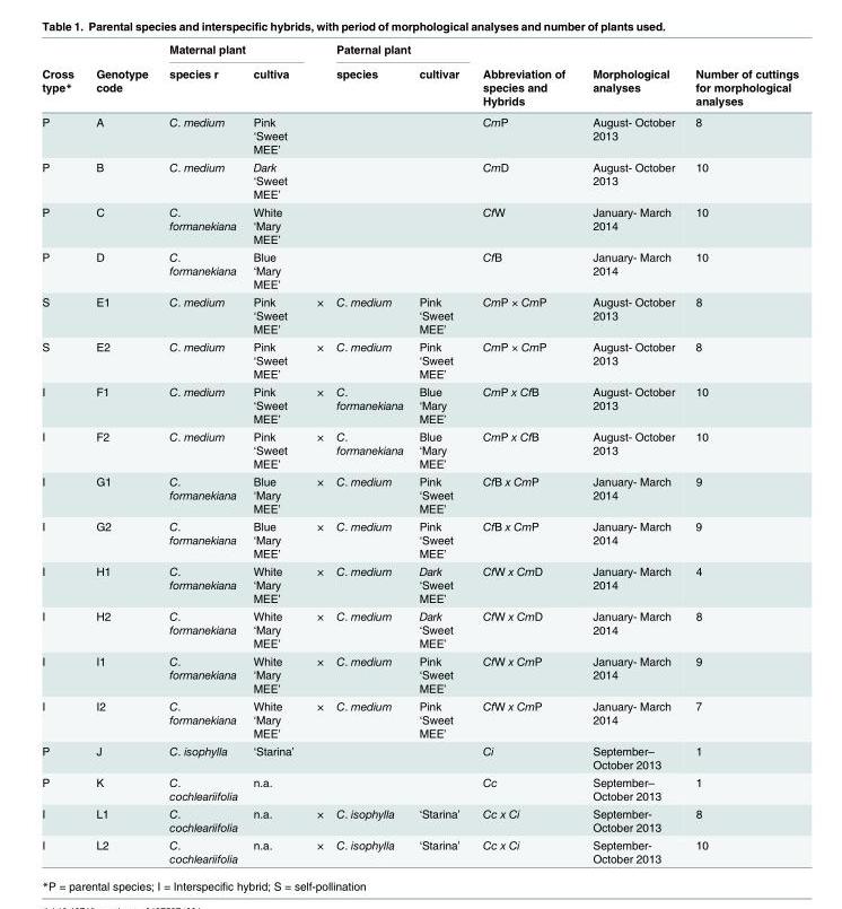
<table><thead><tr><td rowspan="2">Cross type*</td><td rowspan="2">Genotype code</td><td colspan="2">Maternal plant</td><td rowspan="2"></td><td colspan="2">Paternal plant</td><td rowspan="2">Abbreviation of species and Hybrids</td><td rowspan="2">Morphological analyses</td><td rowspan="2">Number of cuttings for morphological analyses</td></tr><tr><td>species r</td><td>cultiva</td><td>species</td><td>cultivar</td></tr></thead><tbody><tr><td>P</td><td>A</td><td>C. medium</td><td>Pink ‘Sweet MEE’</td><td></td><td></td><td></td><td>CmP</td><td>August- October 2013</td><td>8</td></tr><tr><td>P</td><td>B</td><td>C. medium</td><td>Dark ‘Sweet MEE’</td><td></td><td></td><td></td><td>CmD</td><td>August- October 2013</td><td>10</td></tr><tr><td>P</td><td>C</td><td>C. formanekiana</td><td>White ‘Mary MEE’</td><td></td><td></td><td></td><td>CfW</td><td>January- March 2014</td><td>10</td></tr><tr><td>P</td><td>D</td><td>C. formanekiana</td><td>Blue ‘Mary MEE’</td><td></td><td></td><td></td><td>CfB</td><td>January- March 2014</td><td>10</td></tr><tr><td>S</td><td>E1</td><td>C. medium</td><td>Pink ‘Sweet MEE’</td><td>×</td><td>C. medium</td><td>Pink ‘Sweet MEE’</td><td>CmP × CmP</td><td>August- October 2013</td><td>8</td></tr><tr><td>S</td><td>E2</td><td>C. medium</td><td>Pink ‘Sweet MEE’</td><td>×</td><td>C. medium</td><td>Pink ‘Sweet MEE’</td><td>CmP × CmP</td><td>August- October 2013</td><td>8</td></tr><tr><td>I</td><td>F1</td><td>C. medium</td><td>Pink ‘Sweet MEE’</td><td>×</td><td>C. formanekiana</td><td>Blue ‘Mary MEE’</td><td>CmP x CfB</td><td>August- October 2013</td><td>10</td></tr><tr><td>I</td><td>F2</td><td>C. medium</td><td>Pink ‘Sweet MEE’</td><td>×</td><td>C. formanekiana</td><td>Blue ‘Mary MEE’</td><td>CmP x CfB</td><td>August- October 2013</td><td>10</td></tr><tr><td>I</td><td>G1</td><td>C. formanekiana</td><td>Blue ‘Mary MEE’</td><td>×</td><td>C. medium</td><td>Pink ‘Sweet MEE’</td><td>CfB x CmP</td><td>January- March 2014</td><td>9</td></tr><tr><td>I</td><td>G2</td><td>C. formanekiana</td><td>Blue ‘Mary MEE’</td><td>×</td><td>C. medium</td><td>Pink ‘Sweet MEE’</td><td>CfB x CmP</td><td>January- March 2014</td><td>9</td></tr><tr><td>I</td><td>H1</td><td>C. formanekiana</td><td>White ‘Mary MEE’</td><td>×</td><td>C. medium</td><td>Dark ‘Sweet MEE’</td><td>CfW x CmD</td><td>January- March 2014</td><td>4</td></tr><tr><td>I</td><td>H2</td><td>C. formanekiana</td><td>White ‘Mary MEE’</td><td>×</td><td>C. medium</td><td>Dark ‘Sweet MEE’</td><td>CfW x CmD</td><td>January- March 2014</td><td>8</td></tr><tr><td>I</td><td>I1</td><td>C. formanekiana</td><td>White ‘Mary MEE’</td><td>×</td><td>C. medium</td><td>Pink ‘Sweet MEE’</td><td>CfW x CmP</td><td>January- March 2014</td><td>9</td></tr><tr><td>I</td><td>I2</td><td>C. formanekiana</td><td>White ‘Mary MEE’</td><td>×</td><td>C. medium</td><td>Pink ‘Sweet MEE’</td><td>CfW x CmP</td><td>January- March 2014</td><td>7</td></tr><tr><td>P</td><td>J</td><td>C. isophylla</td><td>‘Starina’</td><td></td><td></td><td></td><td>Ci</td><td>September– October 2013</td><td>1</td></tr><tr><td>P</td><td>K</td><td>C. cochleariifolia</td><td>n.a.</td><td></td><td></td><td></td><td>Cc</td><td>September– October 2013</td><td>1</td></tr><tr><td>I</td><td>L1</td><td>C. cochleariifolia</td><td>n.a.</td><td>×</td><td>C. isophylla</td><td>‘Starina’</td><td>Cc x Ci</td><td>September- October 2013</td><td>8</td></tr><tr><td>I</td><td>L2</td><td>C. cochleariifolia</td><td>n.a.</td><td>×</td><td>C. isophylla</td><td>‘Starina’</td><td>Cc x Ci</td><td>September- October 2013</td><td>10</td></tr></tbody></table>